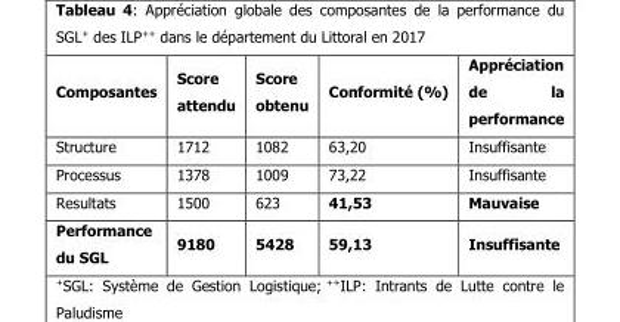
<table><thead><tr><td>Composantes</td><td>Score attendu</td><td>Score obtenu</td><td>Conformité (%)</td><td>Appréciation de la performance</td></tr></thead><tbody><tr><td>Structure</td><td>1712</td><td>1082</td><td>63,20</td><td>Insuffisante</td></tr><tr><td>Processus</td><td>1378</td><td>1009</td><td>73,22</td><td>Insuffisante</td></tr><tr><td>Resultats</td><td>1500</td><td>623</td><td>41,53</td><td>Mauvaise</td></tr><tr><td>Performance du SGL</td><td>9180</td><td>5428</td><td>59,13</td><td>Insuffisante</td></tr></tbody></table>